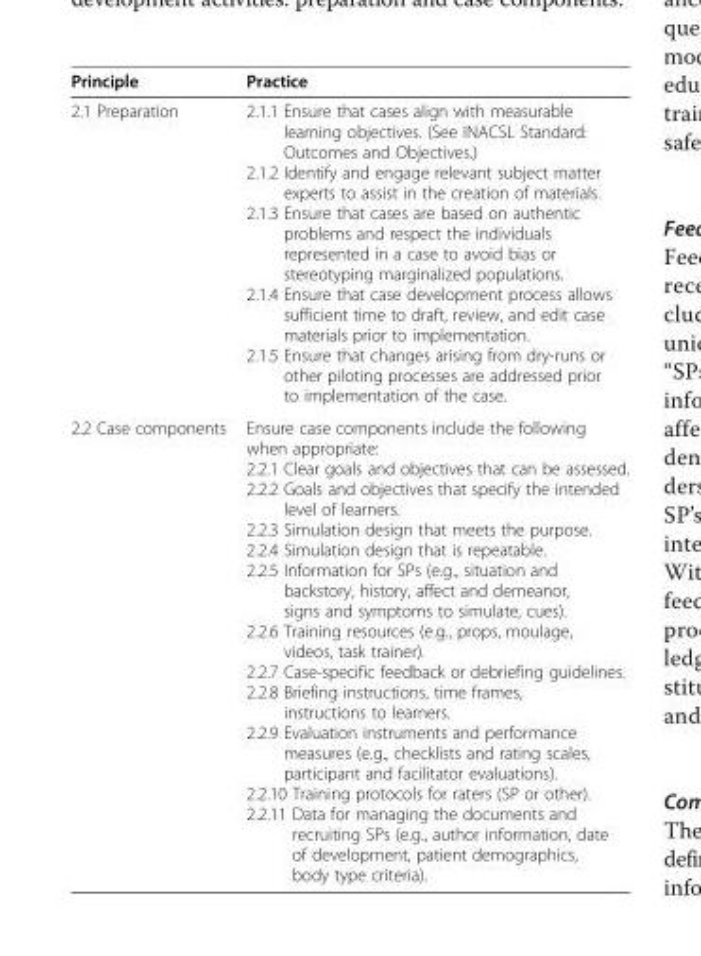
<table><thead><tr><td>Principle</td><td>Practice</td></tr></thead><tbody><tr><td>2.1 Preparation</td><td>2.1.1 Ensure that cases align with measurable learning objectives. (See INACSL Standard: Outcomes and Objectives.) 2.1.2 Identify and engage relevant subject matter experts to assist in the creation of materials. 2.1.3 Ensure that cases are based on authentic problems and respect the individuals represented in a case to avoid bias or stereotyping marginalized populations. 2.1.4 Ensure that case development process allows sufficient time to draft, review, and edit case materials prior to implementation. 2.1.5 Ensure that changes arising from dry-runs or other piloting processes are addressed prior to implementation of the case.</td></tr><tr><td>2.2 Case components</td><td>Ensure case components include the following when appropriate: 2.2.1 Clear goals and objectives that can be assessed. 2.2.2 Goals and objectives that specify the intended level of learners. 2.2.3 Simulation design that meets the purpose. 2.2.4 Simulation design that is repeatable. 2.2.5 Information for SPs (e.g., situation and backstory, history, affect and demeanor, signs and symptoms to simulate, cues). 2.2.6 Training resources (e.g., props, moulage, videos, task trainer). 2.2.7 Case-specific feedback or debriefing guidelines. 2.2.8 Briefing instructions, time frames, instructions to learners. 2.2.9 Evaluation instruments and performance measures (e.g., checklists and rating scales, participant and facilitator evaluations). 2.2.10 Training protocols for raters (SP or other). 2.2.11 Data for managing the documents and recruiting SPs (e.g., author information, date of development, patient demographics, body type criteria).</td></tr></tbody></table>